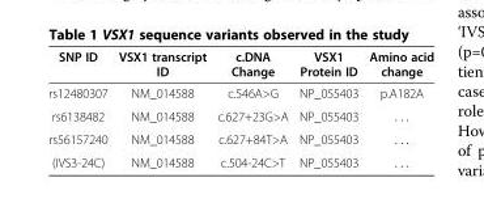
<table><thead><tr><td>SNP ID</td><td>VSX1 transcript ID</td><td>c.DNA Change</td><td>VSX1 Protein ID</td><td>Amino acid change</td></tr></thead><tbody><tr><td>rs12480307</td><td>NM_014588</td><td>c.546A&gt;G</td><td>NP_055403</td><td>p.A182A</td></tr><tr><td>rs6138482</td><td>NM_014588</td><td>c.627+23G&gt;A</td><td>NP_055403</td><td>. . .</td></tr><tr><td>rs56157240</td><td>NM_014588</td><td>c.627+84T&gt;A</td><td>NP_055403</td><td>. . .</td></tr><tr><td>(IVS3-24C)</td><td>NM_014588</td><td>c.504-24C&gt;T</td><td>NP_055403</td><td>. . .</td></tr></tbody></table>